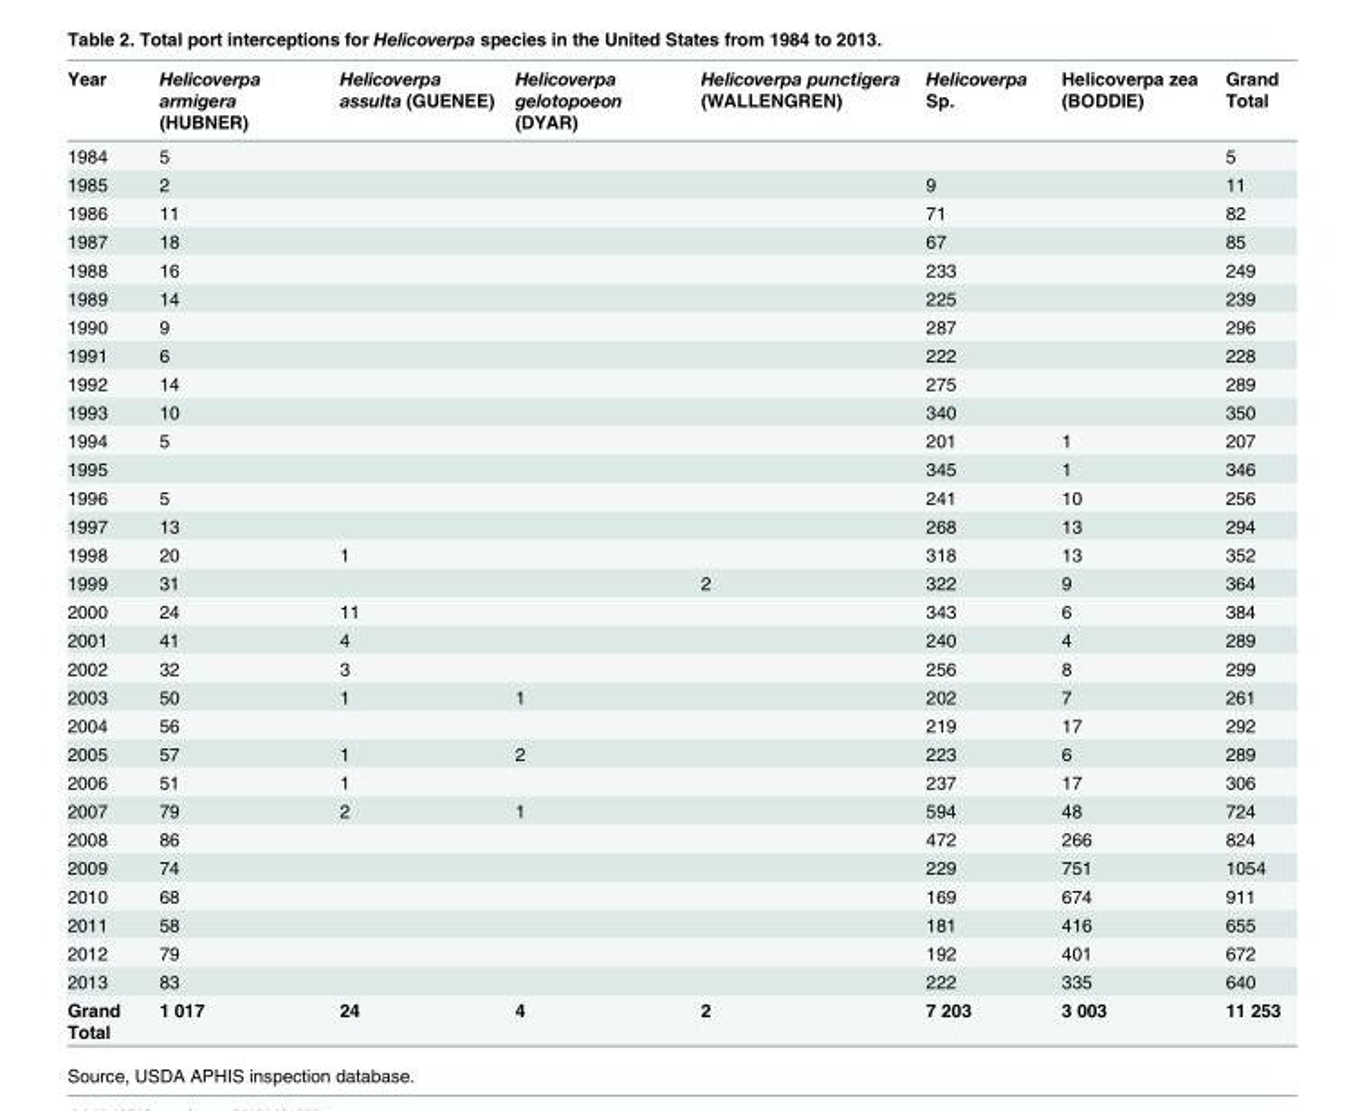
<table><thead><tr><td>Year</td><td>Helicoverpa armigera (HUBNER)</td><td>Helicoverpa assulta (GUENEE)</td><td>Helicoverpa gelotopoeon (DYAR)</td><td>Helicoverpa punctigera (WALLENGREN)</td><td>Helicoverpa Sp.</td><td>Helicoverpa zea (BODDIE)</td><td>Grand Total</td></tr></thead><tbody><tr><td>1984</td><td>5</td><td></td><td></td><td></td><td></td><td></td><td>5</td></tr><tr><td>1985</td><td>2</td><td></td><td></td><td></td><td>9</td><td></td><td>11</td></tr><tr><td>1986</td><td>11</td><td></td><td></td><td></td><td>71</td><td></td><td>82</td></tr><tr><td>1987</td><td>18</td><td></td><td></td><td></td><td>67</td><td></td><td>85</td></tr><tr><td>1988</td><td>16</td><td></td><td></td><td></td><td>233</td><td></td><td>249</td></tr><tr><td>1989</td><td>14</td><td></td><td></td><td></td><td>225</td><td></td><td>239</td></tr><tr><td>1990</td><td>9</td><td></td><td></td><td></td><td>287</td><td></td><td>296</td></tr><tr><td>1991</td><td>6</td><td></td><td></td><td></td><td>222</td><td></td><td>228</td></tr><tr><td>1992</td><td>14</td><td></td><td></td><td></td><td>275</td><td></td><td>289</td></tr><tr><td>1993</td><td>10</td><td></td><td></td><td></td><td>340</td><td></td><td>350</td></tr><tr><td>1994</td><td>5</td><td></td><td></td><td></td><td>201</td><td>1</td><td>207</td></tr><tr><td>1995</td><td></td><td></td><td></td><td></td><td>345</td><td>1</td><td>346</td></tr><tr><td>1996</td><td>5</td><td></td><td></td><td></td><td>241</td><td>10</td><td>256</td></tr><tr><td>1997</td><td>13</td><td></td><td></td><td></td><td>268</td><td>13</td><td>294</td></tr><tr><td>1998</td><td>20</td><td>1</td><td></td><td></td><td>318</td><td>13</td><td>352</td></tr><tr><td>1999</td><td>31</td><td></td><td></td><td>2</td><td>322</td><td>9</td><td>364</td></tr><tr><td>2000</td><td>24</td><td>11</td><td></td><td></td><td>343</td><td>6</td><td>384</td></tr><tr><td>2001</td><td>41</td><td>4</td><td></td><td></td><td>240</td><td>4</td><td>289</td></tr><tr><td>2002</td><td>32</td><td>3</td><td></td><td></td><td>256</td><td>8</td><td>299</td></tr><tr><td>2003</td><td>50</td><td>1</td><td>1</td><td></td><td>202</td><td>7</td><td>261</td></tr><tr><td>2004</td><td>56</td><td></td><td></td><td></td><td>219</td><td>17</td><td>292</td></tr><tr><td>2005</td><td>57</td><td>1</td><td>2</td><td></td><td>223</td><td>6</td><td>289</td></tr><tr><td>2006</td><td>51</td><td>1</td><td></td><td></td><td>237</td><td>17</td><td>306</td></tr><tr><td>2007</td><td>79</td><td>2</td><td>1</td><td></td><td>594</td><td>48</td><td>724</td></tr><tr><td>2008</td><td>86</td><td></td><td></td><td></td><td>472</td><td>266</td><td>824</td></tr><tr><td>2009</td><td>74</td><td></td><td></td><td></td><td>229</td><td>751</td><td>1054</td></tr><tr><td>2010</td><td>68</td><td></td><td></td><td></td><td>169</td><td>674</td><td>911</td></tr><tr><td>2011</td><td>58</td><td></td><td></td><td></td><td>181</td><td>416</td><td>655</td></tr><tr><td>2012</td><td>79</td><td></td><td></td><td></td><td>192</td><td>401</td><td>672</td></tr><tr><td>2013</td><td>83</td><td></td><td></td><td></td><td>222</td><td>335</td><td>640</td></tr><tr><td>Grand Total</td><td>1 017</td><td>24</td><td>4</td><td>2</td><td>7 203</td><td>3 003</td><td>11 253</td></tr></tbody></table>